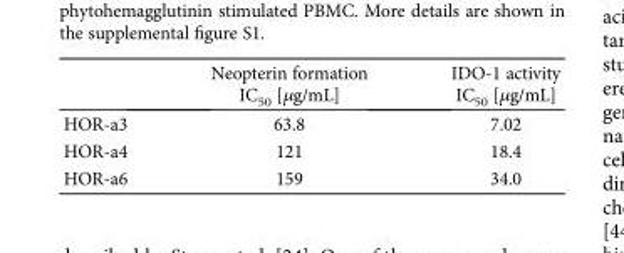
<table><thead><tr><td></td><td>Neopterin formation IC<sub>50</sub> [μg/mL]</td><td>IDO-1 activity IC<sub>50</sub> [μg/mL]</td></tr></thead><tbody><tr><td>HOR-a3</td><td>63.8</td><td>7.02</td></tr><tr><td>HOR-a4</td><td>121</td><td>18.4</td></tr><tr><td>HOR-a6</td><td>159</td><td>34.0</td></tr></tbody></table>